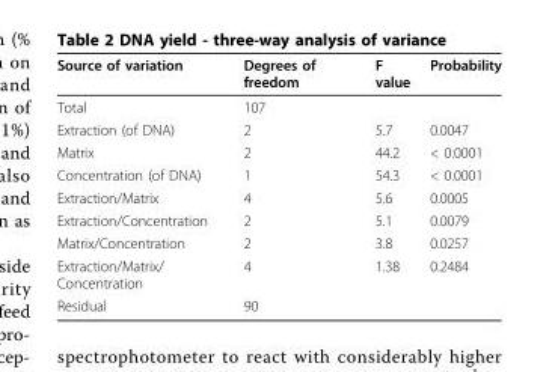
<table><thead><tr><td>Source of variation</td><td>Degrees of freedom</td><td>F value</td><td>Probability</td></tr></thead><tbody><tr><td>Total</td><td>107</td><td></td><td></td></tr><tr><td>Extraction (of DNA)</td><td>2</td><td>5.7</td><td>0.0047</td></tr><tr><td>Matrix</td><td>2</td><td>44.2</td><td>&lt; 0.0001</td></tr><tr><td>Concentration (of DNA)</td><td>1</td><td>54.3</td><td>&lt; 0.0001</td></tr><tr><td>Extraction/Matrix</td><td>4</td><td>5.6</td><td>0.0005</td></tr><tr><td>Extraction/Concentration</td><td>2</td><td>5.1</td><td>0.0079</td></tr><tr><td>Matrix/Concentration</td><td>2</td><td>3.8</td><td>0.0257</td></tr><tr><td>Extraction/Matrix/ Concentration</td><td>4</td><td>1.38</td><td>0.2484</td></tr><tr><td>Residual</td><td>90</td><td></td><td></td></tr></tbody></table>